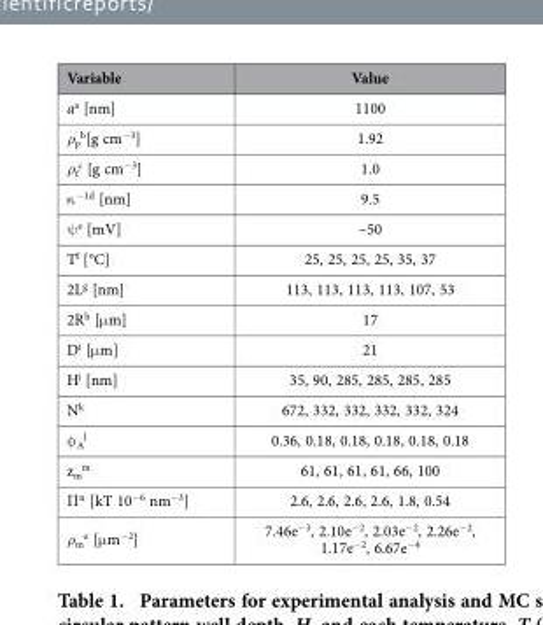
<table><thead><tr><td>Variable</td><td>Value</td></tr></thead><tbody><tr><td>a<sup>a</sup> [nm]</td><td>1100</td></tr><tr><td>ρ<sub>p</sub> <sup>b</sup>[g cm<sup>−3</sup>]</td><td>1.92</td></tr><tr><td>ρ<sub>f</sub> <sup>c</sup> [g cm<sup>−3</sup>]</td><td>1.0</td></tr><tr><td>κ <sup>−1d</sup> [nm]</td><td>9.5</td></tr><tr><td>ψ <sup>e</sup> [mV]</td><td>–50</td></tr><tr><td>T<sup>f</sup> [°C]</td><td>25, 25, 25, 25, 35, 37</td></tr><tr><td>2L<sup>g</sup> [nm]</td><td>113, 113, 113, 113, 107, 53</td></tr><tr><td>2R<sup>h</sup> [μ m]</td><td>17</td></tr><tr><td>D<sup>i</sup> [μ m]</td><td>21</td></tr><tr><td>H<sup>j</sup> [nm]</td><td>35, 90, 285, 285, 285, 285</td></tr><tr><td>N<sup>k</sup></td><td>672, 332, 332, 332, 332, 324</td></tr><tr><td>φ <sub>A</sub> <sup>l</sup></td><td>0.36, 0.18, 0.18, 0.18, 0.18, 0.18</td></tr><tr><td>z<sub>m</sub> <sup>m</sup></td><td>61, 61, 61, 61, 66, 100</td></tr><tr><td>Π <sup>n</sup> [kT 10<sup>−6</sup> nm<sup>−3</sup>]</td><td>2.6, 2.6, 2.6, 2.6, 1.8, 0.54</td></tr><tr><td>ρ<sub>m</sub> <sup>o</sup> [μ m<sup>−2</sup>]</td><td>7.46e<sup>−3</sup>, 2.10e<sup>−2</sup>, 2.03e<sup>−2</sup>, 2.26e<sup>−2</sup>, 1.17e<sup>−2</sup>, 6.67e<sup>−4</sup></td></tr></tbody></table>